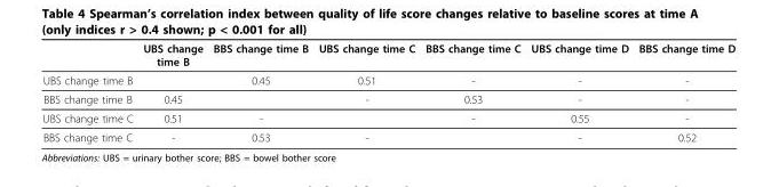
<table><thead><tr><td></td><td>UBS change time B</td><td>BBS change time B</td><td>UBS change time C</td><td>BBS change time C</td><td>UBS change time D</td><td>BBS change time D</td></tr></thead><tbody><tr><td>UBS change time B</td><td></td><td>0.45</td><td>0.51</td><td>-</td><td>-</td><td>-</td></tr><tr><td>BBS change time B</td><td>0.45</td><td></td><td>-</td><td>0.53</td><td>-</td><td>-</td></tr><tr><td>UBS change time C</td><td>0.51</td><td>-</td><td></td><td>-</td><td>0.55</td><td>-</td></tr><tr><td>BBS change time C</td><td>-</td><td>0.53</td><td>-</td><td></td><td>-</td><td>0.52</td></tr></tbody></table>